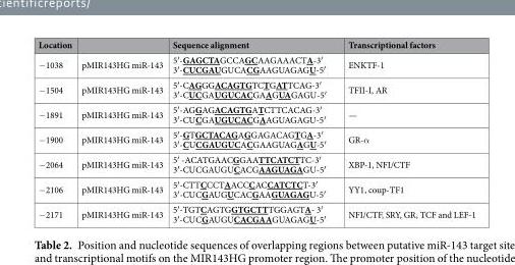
<table><thead><tr><td>Location</td><td></td><td>Sequence alignment</td><td>Transcriptional factors</td></tr></thead><tbody><tr><td>−1038</td><td>pMIR143HG miR-143</td><td>5′-GAGCTAGCCAGCAAGAAACTA-3′ 3′-CUCGAUGUCACGAAGUAGAGU-5′</td><td>ENKTF-1</td></tr><tr><td>−1504</td><td>pMIR143HG miR-143</td><td>5′-CAGGGACAGTGTCTGATTCAG-3′ 3′-CUCGAUGUCACGAAGUAGAGU-5′</td><td>TFII-I, AR</td></tr><tr><td>−1891</td><td>pMIR143HG miR-143</td><td>5′-AGGAGACAGTGATCTTCACAG-3′ 3′-CUCGAUGUCACGAAGUAGAGU-5′</td><td>—</td></tr><tr><td>−1900</td><td>pMIR143HG miR-143</td><td>5′-GTGCTACAGAGGAGACAGTGA-3′ 3′-CUCGAUGUCACGAAGUAGAGU-5′</td><td>GR-α</td></tr><tr><td>−2064</td><td>pMIR143HG miR-143</td><td>5′ -ACATGAACGGAATTCATCTTC-3′ 3′-CUCGAUGUCACGAAGUAGAGU-5′</td><td>XBP-1, NFI/CTF</td></tr><tr><td>−2106</td><td>pMIR143HG miR-143</td><td>5′-CTTCCCTAACCCACCATCTCT-3′ 3′-CUCGAUGUCACGAAGUAGAGU-5′</td><td>YY1, coup-TF1</td></tr><tr><td>−2171</td><td>pMIR143HG miR-143</td><td>5′-TGTCAGTGGTGCTTTGGAGTA- 3′ 3′-CUCGAUGUCACGAAGUAGAGU-5′</td><td>NFI/CTF, SRY, GR, TCF and LEF-1</td></tr></tbody></table>